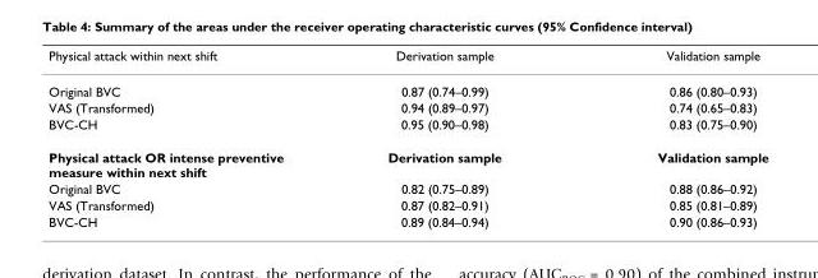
<table><thead><tr><td>Physical attack within next shift</td><td>Derivation sample</td><td>Validation sample</td></tr></thead><tbody><tr><td>Original BVC</td><td>0.87 (0.74–0.99)</td><td>0.86 (0.80–0.93)</td></tr><tr><td>VAS (Transformed)</td><td>0.94 (0.89–0.97)</td><td>0.74 (0.65–0.83)</td></tr><tr><td>BVC-CH</td><td>0.95 (0.90–0.98)</td><td>0.83 (0.75–0.90)</td></tr><tr><td>Physical attack OR intense preventive measure within next shift</td><td>Derivation sample</td><td>Validation sample</td></tr><tr><td>Original BVC</td><td>0.82 (0.75–0.89)</td><td>0.88 (0.86–0.92)</td></tr><tr><td>VAS (Transformed)</td><td>0.87 (0.82–0.91)</td><td>0.85 (0.81–0.89)</td></tr><tr><td>BVC-CH</td><td>0.89 (0.84–0.94)</td><td>0.90 (0.86–0.93)</td></tr></tbody></table>